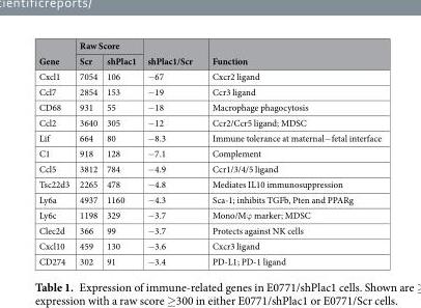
<table><thead><tr><td rowspan="2">Gene</td><td colspan="2">Raw Score</td><td rowspan="2">shPlac1/Scr</td><td rowspan="2">Function</td></tr><tr><td>Scr</td><td>shPlac1</td></tr></thead><tbody><tr><td>Cxcl1</td><td>7054</td><td>106</td><td>−67</td><td>Cxcr2 ligand</td></tr><tr><td>Ccl7</td><td>2854</td><td>153</td><td>−19</td><td>Ccr3 ligand</td></tr><tr><td>CD68</td><td>931</td><td>55</td><td>−18</td><td>Macrophage phagocytosis</td></tr><tr><td>Ccl2</td><td>3640</td><td>305</td><td>−12</td><td>Ccr2/Ccr5 ligand; MDSC</td></tr><tr><td>Lif</td><td>664</td><td>80</td><td>−8.3</td><td>Immune tolerance at maternal−fetal interface</td></tr><tr><td>C1</td><td>918</td><td>128</td><td>−7.1</td><td>Complement</td></tr><tr><td>Ccl5</td><td>3812</td><td>784</td><td>−4.9</td><td>Ccr1/3/4/5 ligand</td></tr><tr><td>Tsc22d3</td><td>2265</td><td>478</td><td>−4.8</td><td>Mediates IL10 immunosuppression</td></tr><tr><td>Ly6a</td><td>4937</td><td>1160</td><td>−4.3</td><td>Sca-1; inhibits TGFb, Pten and PPARg</td></tr><tr><td>Ly6c</td><td>1198</td><td>329</td><td>−3.7</td><td>Mono/Mϕ marker; MDSC</td></tr><tr><td>Clec2d</td><td>366</td><td>99</td><td>−3.7</td><td>Protects against NK cells</td></tr><tr><td>Cxcl10</td><td>459</td><td>130</td><td>−3.6</td><td>Cxcr3 ligand</td></tr><tr><td>CD274</td><td>302</td><td>91</td><td>−3.4</td><td>PD-L1; PD-1 ligand</td></tr></tbody></table>